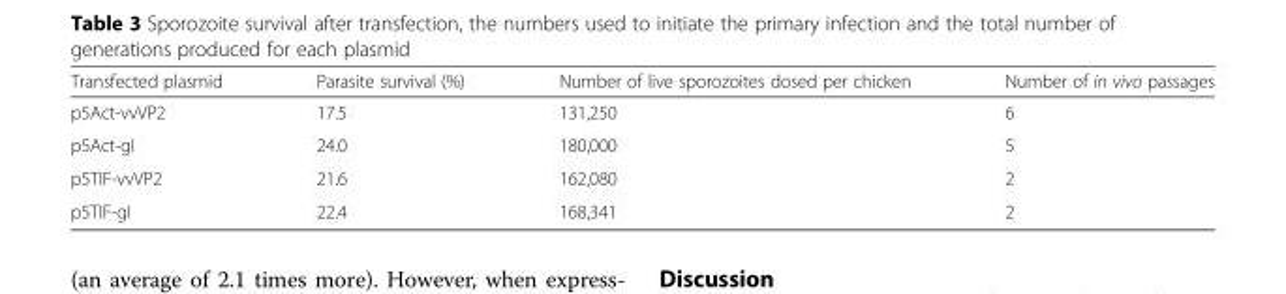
<table><thead><tr><td>Transfected plasmid</td><td>Parasite survival (%)</td><td>Number of live sporozoites dosed per chicken</td><td>Number of in vivo passages</td></tr></thead><tbody><tr><td>p5Act-vvVP2</td><td>17.5</td><td>131,250</td><td>6</td></tr><tr><td>p5Act-gI</td><td>24.0</td><td>180,000</td><td>5</td></tr><tr><td>p5TIF-vvVP2</td><td>21.6</td><td>162,080</td><td>2</td></tr><tr><td>p5TIF-gI</td><td>22.4</td><td>168,341</td><td>2</td></tr></tbody></table>